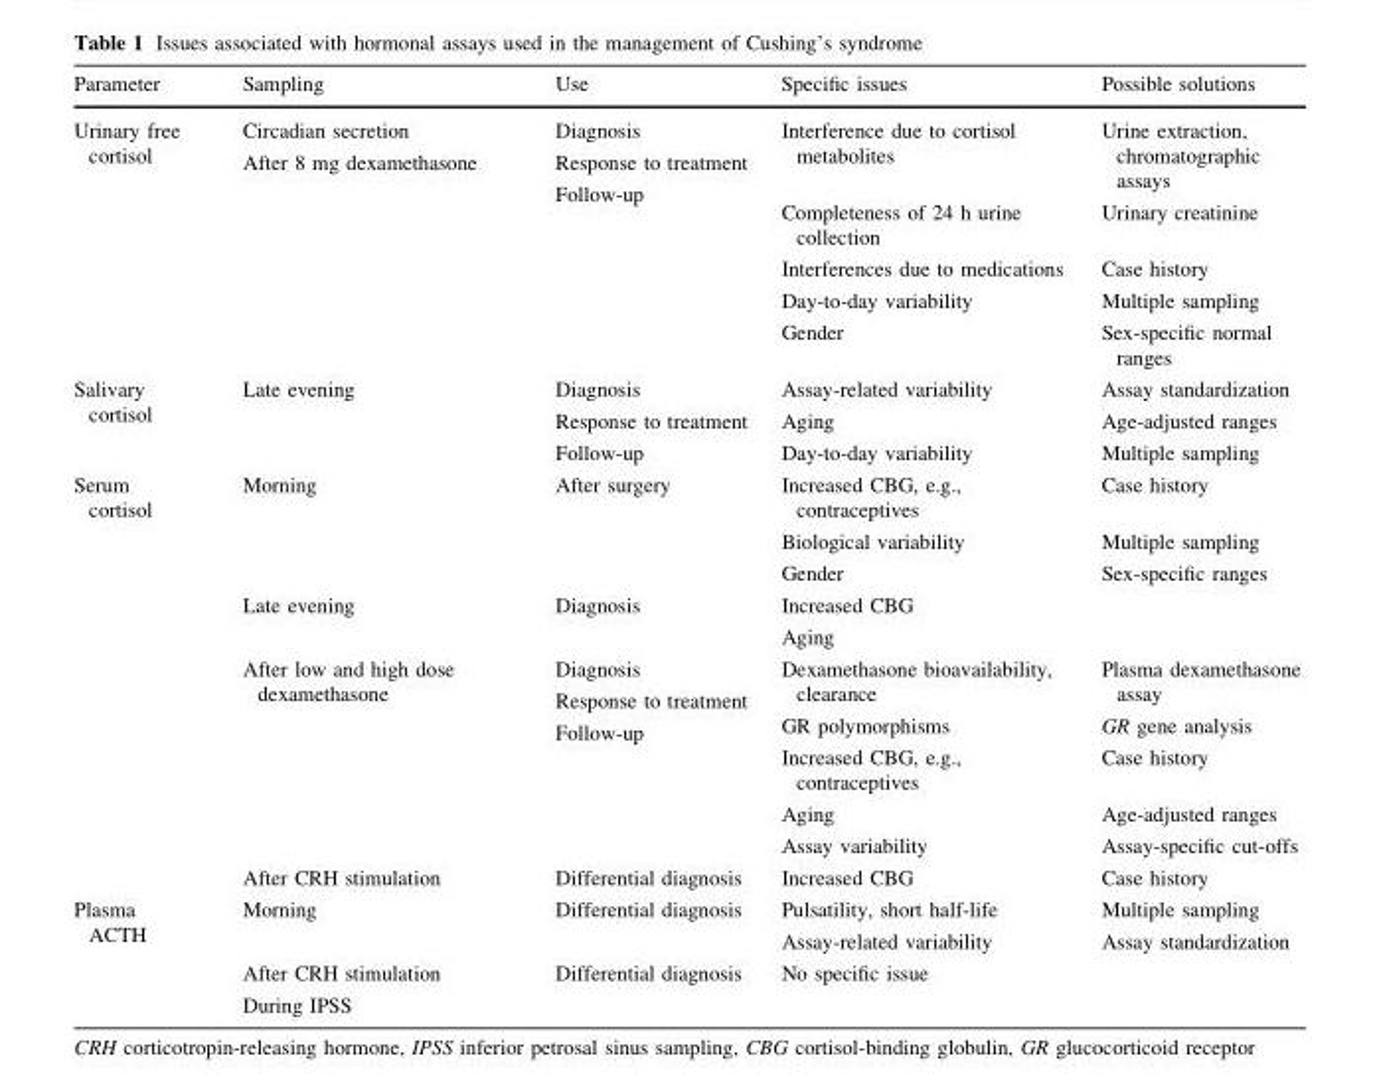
<table><thead><tr><td>Parameter</td><td>Sampling</td><td>Use</td><td>Specific issues</td><td>Possible solutions</td></tr></thead><tbody><tr><td rowspan="5">Urinary free cortisol</td><td rowspan="5">Circadian secretion After 8 mg dexamethasone</td><td rowspan="5">Diagnosis Response to treatment Follow-up</td><td>Interference due to cortisol metabolites</td><td>Urine extraction, chromatographic assays</td></tr><tr><td>Completeness of 24 h urine collection</td><td>Urinary creatinine</td></tr><tr><td>Interferences due to medications</td><td>Case history</td></tr><tr><td>Day-to-day variability</td><td>Multiple sampling</td></tr><tr><td>Gender</td><td>Sex-specific normal ranges</td></tr><tr><td>Salivary cortisol</td><td>Late evening</td><td>Diagnosis Response to treatment Follow-up</td><td>Assay-related variability Aging Day-to-day variability</td><td>Assay standardization Age-adjusted ranges Multiple sampling</td></tr><tr><td rowspan="10">Serum cortisol</td><td rowspan="3">Morning</td><td rowspan="3">After surgery</td><td>Increased CBG, e.g., contraceptives</td><td>Case history</td></tr><tr><td>Biological variability</td><td>Multiple sampling</td></tr><tr><td>Gender</td><td>Sex-specific ranges</td></tr><tr><td>Late evening</td><td>Diagnosis</td><td>Increased CBG Aging</td><td></td></tr><tr><td rowspan="5">After low and high dose dexamethasone</td><td rowspan="5">Diagnosis Response to treatment Follow-up</td><td>Dexamethasone bioavailability, clearance</td><td>Plasma dexamethasone assay</td></tr><tr><td>GR polymorphisms</td><td>GR gene analysis</td></tr><tr><td>Increased CBG, e.g., contraceptives</td><td>Case history</td></tr><tr><td>Aging</td><td>Age-adjusted ranges</td></tr><tr><td>Assay variability</td><td>Assay-specific cut-offs</td></tr><tr><td>After CRH stimulation</td><td>Differential diagnosis</td><td>Increased CBG</td><td>Case history</td></tr><tr><td rowspan="2">Plasma ACTH</td><td>Morning</td><td>Differential diagnosis</td><td>Pulsatility, short half-life Assay-related variability</td><td>Multiple sampling Assay standardization</td></tr><tr><td>After CRH stimulation During IPSS</td><td>Differential diagnosis</td><td>No specific issue</td><td></td></tr></tbody></table>